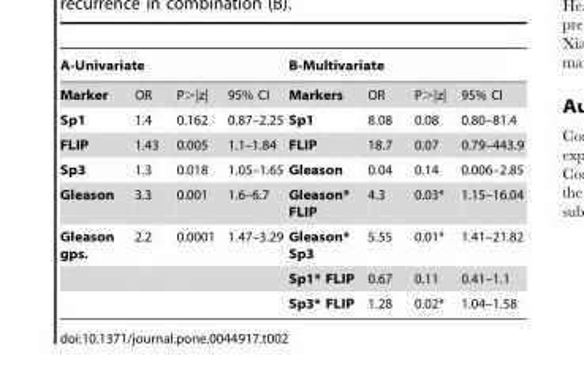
<table><thead><tr><td colspan="4">A-Univariate</td><td colspan="4">B-Multivariate</td></tr><tr><td>Marker</td><td>OR</td><td>P&gt;|z|</td><td>95% CI</td><td>Markers</td><td>OR</td><td>P&gt;|z|</td><td>95% CI</td></tr></thead><tbody><tr><td>Sp1</td><td>1.4</td><td>0.162</td><td>0.87–2.25</td><td>Sp1</td><td>8.08</td><td>0.08</td><td>0.80–81.4</td></tr><tr><td>FLIP</td><td>1.43</td><td>0.005</td><td>1.1–1.84</td><td>FLIP</td><td>18.7</td><td>0.07</td><td>0.79–443.9</td></tr><tr><td>Sp3</td><td>1.3</td><td>0.018</td><td>1.05–1.65</td><td>Gleason</td><td>0.04</td><td>0.14</td><td>0.006–2.85</td></tr><tr><td>Gleason</td><td>3.3</td><td>0.001</td><td>1.6–6.7</td><td>Gleason* FLIP</td><td>4.3</td><td>0.03*</td><td>1.15–16.04</td></tr><tr><td rowspan="3">Gleason gps.</td><td>2.2</td><td>0.0001</td><td>1.47–3.29</td><td>Gleason* Sp3</td><td>5.55</td><td>0.01*</td><td>1.41–21.82</td></tr><tr><td></td><td></td><td></td><td>Sp1* FLIP</td><td>0.67</td><td>0.11</td><td>0.41–1.1</td></tr><tr><td></td><td></td><td></td><td>Sp3* FLIP</td><td>1.28</td><td>0.02*</td><td>1.04–1.58</td></tr></tbody></table>